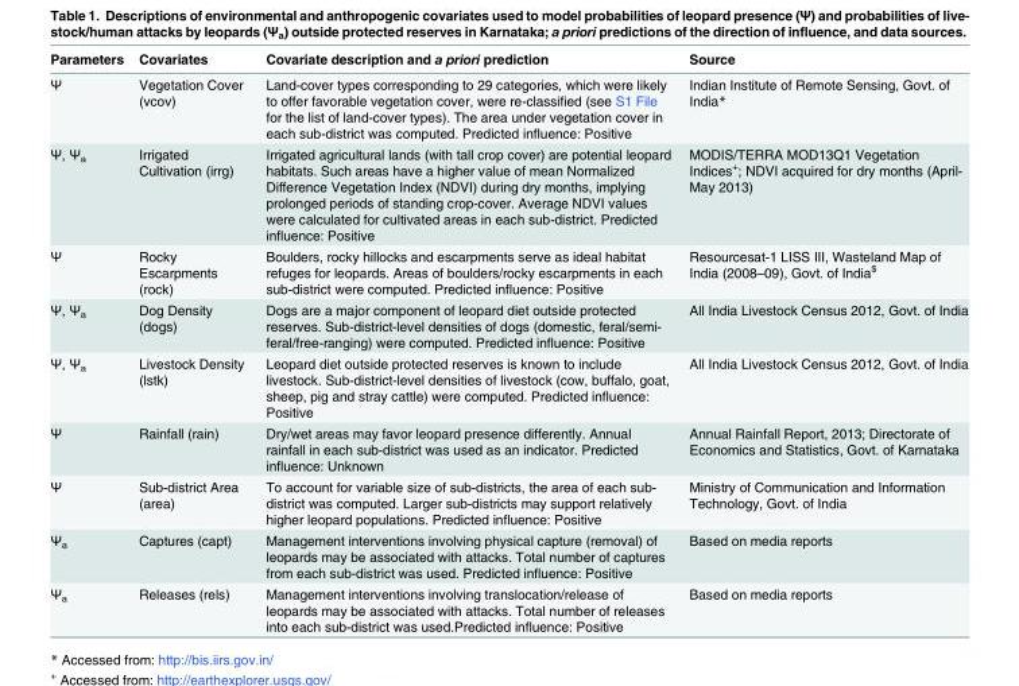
<table><thead><tr><td>Parameters</td><td>Covariates</td><td>Covariate description and a priori prediction</td><td>Source</td></tr></thead><tbody><tr><td>Ψ</td><td>Vegetation Cover (vcov)</td><td>Land-cover types corresponding to 29 categories, which were likely to offer favorable vegetation cover, were re-classified (see S1 File for the list of land-cover types). The area under vegetation cover in each sub-district was computed. Predicted influence: Positive</td><td>Indian Institute of Remote Sensing, Govt. of India*</td></tr><tr><td>Ψ, Ψ<sub>a</sub></td><td>Irrigated Cultivation (irrg)</td><td>Irrigated agricultural lands (with tall crop cover) are potential leopard habitats. Such areas have a higher value of mean Normalized Difference Vegetation Index (NDVI) during dry months, implying prolonged periods of standing crop-cover. Average NDVI values were calculated for cultivated areas in each sub-district. Predicted influence: Positive</td><td>MODIS/TERRA MOD13Q1 Vegetation Indices<sup>+</sup>; NDVI acquired for dry months (April- May 2013)</td></tr><tr><td>Ψ</td><td>Rocky Escarpments (rock)</td><td>Boulders, rocky hillocks and escarpments serve as ideal habitat refuges for leopards. Areas of boulders/rocky escarpments in each sub-district were computed. Predicted influence: Positive</td><td>Resourcesat-1 LISS III, Wasteland Map of India (2008–09), Govt. of India<sup>$</sup></td></tr><tr><td>Ψ, Ψ<sub>a</sub></td><td>Dog Density (dogs)</td><td>Dogs are a major component of leopard diet outside protected reserves. Sub-district-level densities of dogs (domestic, feral/semi- feral/free-ranging) were computed. Predicted influence: Positive</td><td>All India Livestock Census 2012, Govt. of India</td></tr><tr><td>Ψ, Ψ<sub>a</sub></td><td>Livestock Density (lstk)</td><td>Leopard diet outside protected reserves is known to include livestock. Sub-district-level densities of livestock (cow, buffalo, goat, sheep, pig and stray cattle) were computed. Predicted influence: Positive</td><td>All India Livestock Census 2012, Govt. of India</td></tr><tr><td>Ψ</td><td>Rainfall (rain)</td><td>Dry/wet areas may favor leopard presence differently. Annual rainfall in each sub-district was used as an indicator. Predicted influence: Unknown</td><td>Annual Rainfall Report, 2013; Directorate of Economics and Statistics, Govt. of Karnataka</td></tr><tr><td>Ψ</td><td>Sub-district Area (area)</td><td>To account for variable size of sub-districts, the area of each sub- district was computed. Larger sub-districts may support relatively higher leopard populations. Predicted influence: Positive</td><td>Ministry of Communication and Information Technology, Govt. of India</td></tr><tr><td>Ψ<sub>a</sub></td><td>Captures (capt)</td><td>Management interventions involving physical capture (removal) of leopards may be associated with attacks. Total number of captures from each sub-district was used. Predicted influence: Positive</td><td>Based on media reports</td></tr><tr><td>Ψ<sub>a</sub></td><td>Releases (rels)</td><td>Management interventions involving translocation/release of leopards may be associated with attacks. Total number of releases into each sub-district was used.Predicted influence: Positive</td><td>Based on media reports</td></tr></tbody></table>